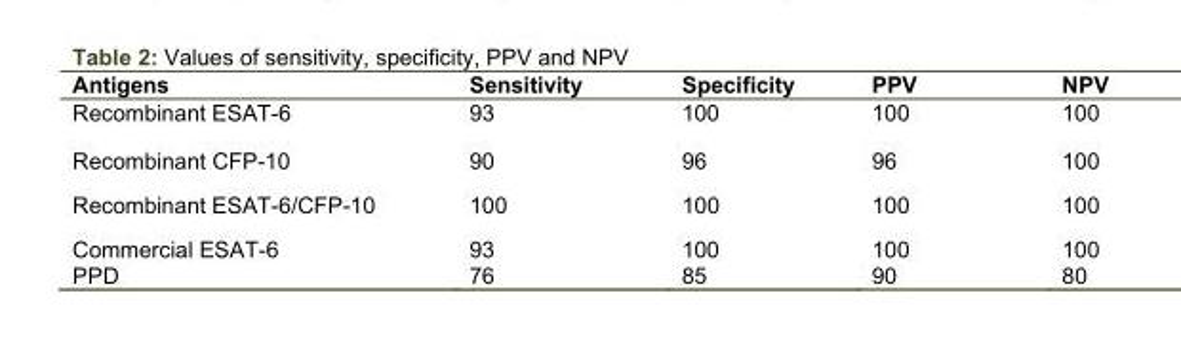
<table><thead><tr><td>Antigens</td><td>Sensitivity</td><td>Specificity</td><td>PPV</td><td>NPV</td></tr></thead><tbody><tr><td>Recombinant ESAT-6</td><td>93</td><td>100</td><td>100</td><td>100</td></tr><tr><td>Recombinant CFP-10</td><td>90</td><td>96</td><td>96</td><td>100</td></tr><tr><td>Recombinant ESAT-6/CFP-10</td><td>100</td><td>100</td><td>100</td><td>100</td></tr><tr><td>Commercial ESAT-6</td><td>93</td><td>100</td><td>100</td><td>100</td></tr><tr><td>PPD</td><td>76</td><td>85</td><td>90</td><td>80</td></tr></tbody></table>